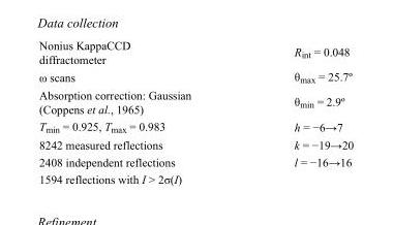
<table><tbody><tr><td>Nonius KappaCCD diffractometer</td><td>R<sub>int</sub> = 0.048</td></tr><tr><td>ω scans</td><td>θ<sub>max</sub> = 25.7º</td></tr><tr><td>Absorption correction: Gaussian (Coppens et al., 1965)</td><td>θ<sub>min</sub> = 2.9º</td></tr><tr><td>T<sub>min</sub> = 0.925, T<sub>max</sub> = 0.983</td><td>h = −6→7</td></tr><tr><td>8242 measured reflections</td><td>k = −19→20</td></tr><tr><td>2408 independent reflections</td><td>l = −16→16</td></tr><tr><td>1594 reflections with I &gt; 2σ(I)</td><td></td></tr></tbody></table>